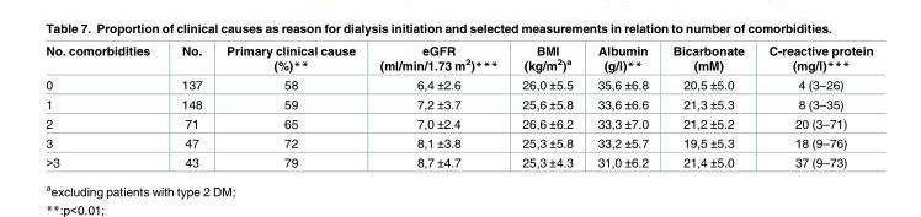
<table><thead><tr><td>No. comorbidities</td><td>No.</td><td>Primary clinical cause (%)**</td><td>eGFR (ml/min/1.73 m<sup>2</sup>)***</td><td>BMI (kg/m<sup>2</sup>)<sup>a</sup></td><td>Albumin (g/l)**</td><td>Bicarbonate (mM)</td><td>C-reactive protein (mg/l)***</td></tr></thead><tbody><tr><td>0</td><td>137</td><td>58</td><td>6,4 ±2.6</td><td>26,0 ±5.5</td><td>35,6 ±6.8</td><td>20,5 ±5.0</td><td>4 (3–26)</td></tr><tr><td>1</td><td>148</td><td>59</td><td>7,2 ±3.7</td><td>25,6 ±5.8</td><td>33,6 ±6.6</td><td>21,3 ±5.3</td><td>8 (3–35)</td></tr><tr><td>2</td><td>71</td><td>65</td><td>7,0 ±2.4</td><td>26,6 ±6.2</td><td>33,3 ±7.0</td><td>21,2 ±5.2</td><td>20 (3–71)</td></tr><tr><td>3</td><td>47</td><td>72</td><td>8,1 ±3.8</td><td>25,3 ±5.8</td><td>33,2 ±5.7</td><td>19,5 ±5.3</td><td>18 (9–76)</td></tr><tr><td>&gt;3</td><td>43</td><td>79</td><td>8,7 ±4.7</td><td>25,3 ±4.3</td><td>31,0 ±6.2</td><td>21,4 ±5.0</td><td>37 (9–73)</td></tr></tbody></table>